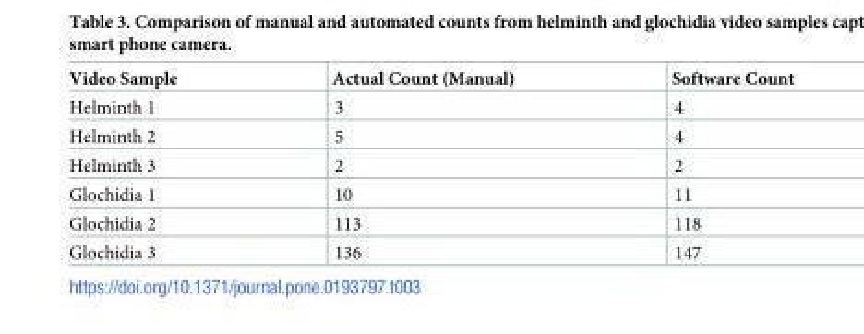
<table><thead><tr><td>Video Sample</td><td>Actual Count (Manual)</td><td>Software Count</td></tr></thead><tbody><tr><td>Helminth 1</td><td>3</td><td>4</td></tr><tr><td>Helminth 2</td><td>5</td><td>4</td></tr><tr><td>Helminth 3</td><td>2</td><td>2</td></tr><tr><td>Glochidia 1</td><td>10</td><td>11</td></tr><tr><td>Glochidia 2</td><td>113</td><td>118</td></tr><tr><td>Glochidia 3</td><td>136</td><td>147</td></tr></tbody></table>